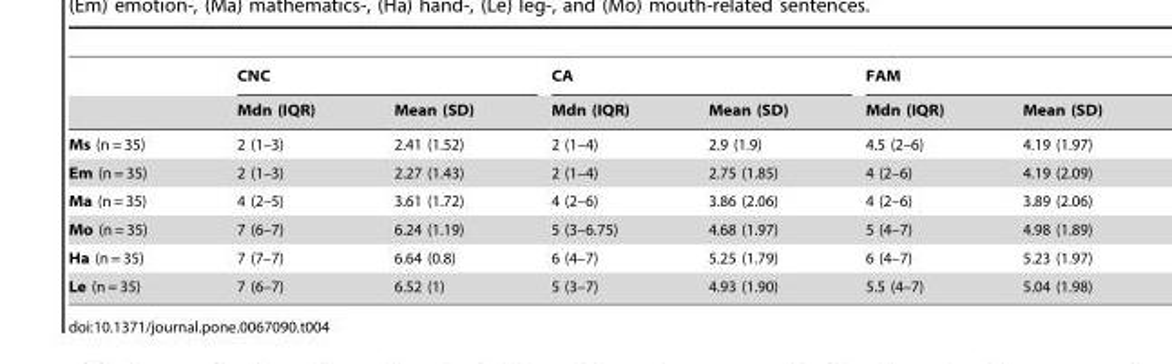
<table><thead><tr><td rowspan="2"></td><td colspan="2">CNC</td><td colspan="2">CA</td><td colspan="2">FAM</td></tr><tr><td>Mdn (IQR)</td><td>Mean (SD)</td><td>Mdn (IQR)</td><td>Mean (SD)</td><td>Mdn (IQR)</td><td>Mean (SD)</td></tr></thead><tbody><tr><td>Ms (n = 35)</td><td>2 (1–3)</td><td>2.41 (1.52)</td><td>2 (1–4)</td><td>2.9 (1.9)</td><td>4.5 (2–6)</td><td>4.19 (1.97)</td></tr><tr><td>Em (n = 35)</td><td>2 (1–3)</td><td>2.27 (1.43)</td><td>2 (1–4)</td><td>2.75 (1.85)</td><td>4 (2–6)</td><td>4.19 (2.09)</td></tr><tr><td>Ma (n = 35)</td><td>4 (2–5)</td><td>3.61 (1.72)</td><td>4 (2–6)</td><td>3.86 (2.06)</td><td>4 (2–6)</td><td>3.89 (2.06)</td></tr><tr><td>Mo (n = 35)</td><td>7 (6–7)</td><td>6.24 (1.19)</td><td>5 (3–6.75)</td><td>4.68 (1.97)</td><td>5 (4–7)</td><td>4.98 (1.89)</td></tr><tr><td>Ha (n = 35)</td><td>7 (7–7)</td><td>6.64 (0.8)</td><td>6 (4–7)</td><td>5.25 (1.79)</td><td>6 (4–7)</td><td>5.23 (1.97)</td></tr><tr><td>Le (n = 35)</td><td>7 (6–7)</td><td>6.52 (1)</td><td>5 (3–7)</td><td>4.93 (1.90)</td><td>5.5 (4–7)</td><td>5.04 (1.98)</td></tr></tbody></table>